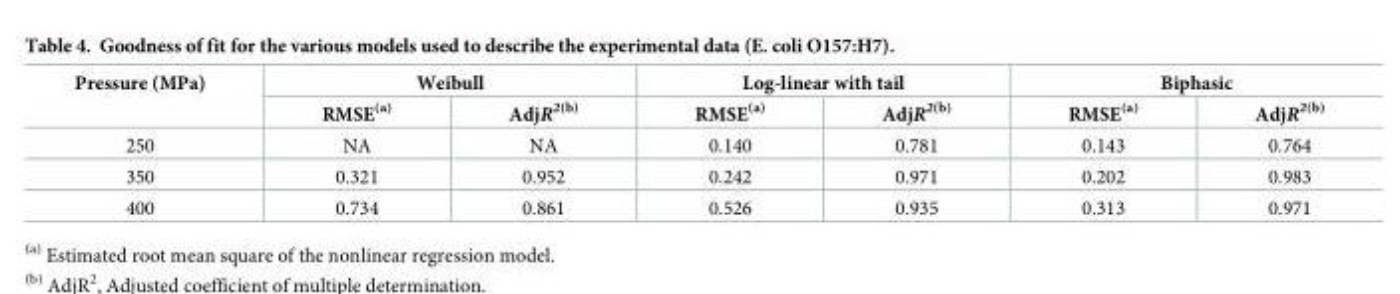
<table><thead><tr><td rowspan="2">Pressure (MPa)</td><td colspan="2">Weibull</td><td colspan="2">Log-linear with tail</td><td colspan="2">Biphasic</td></tr><tr><td>RMSE<sup>(a)</sup></td><td>AdjR<sup>2(b)</sup></td><td>RMSE<sup>(a)</sup></td><td>AdjR<sup>2(b)</sup></td><td>RMSE<sup>(a)</sup></td><td>AdjR<sup>2(b)</sup></td></tr></thead><tbody><tr><td>250</td><td>NA</td><td>NA</td><td>0.140</td><td>0.781</td><td>0.143</td><td>0.764</td></tr><tr><td>350</td><td>0.321</td><td>0.952</td><td>0.242</td><td>0.971</td><td>0.202</td><td>0.983</td></tr><tr><td>400</td><td>0.734</td><td>0.861</td><td>0.526</td><td>0.935</td><td>0.313</td><td>0.971</td></tr></tbody></table>